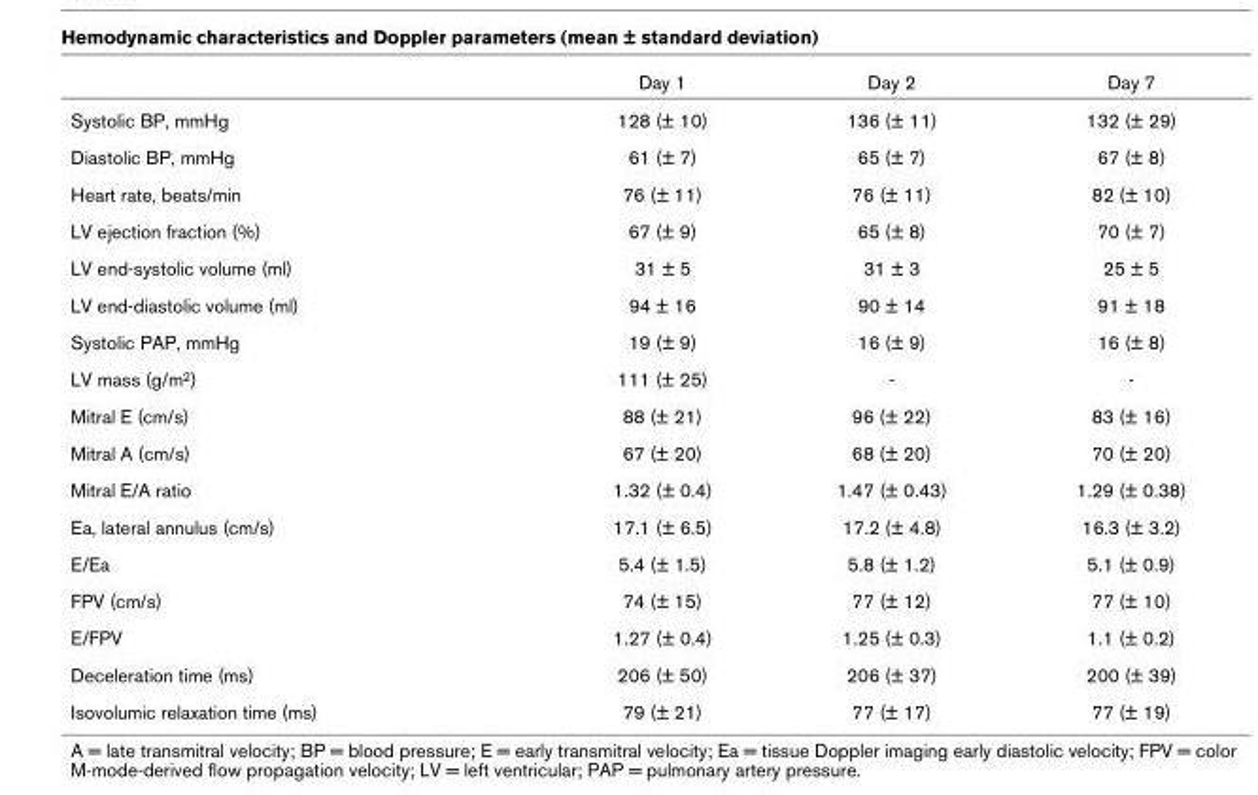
<table><thead><tr><td></td><td>Day 1</td><td>Day 2</td><td>Day 7</td></tr></thead><tbody><tr><td>Systolic BP, mmHg</td><td>128 (± 10)</td><td>136 (± 11)</td><td>132 (± 29)</td></tr><tr><td>Diastolic BP, mmHg</td><td>61 (± 7)</td><td>65 (± 7)</td><td>67 (± 8)</td></tr><tr><td>Heart rate, beats/min</td><td>76 (± 11)</td><td>76 (± 11)</td><td>82 (± 10)</td></tr><tr><td>LV ejection fraction (%)</td><td>67 (± 9)</td><td>65 (± 8)</td><td>70 (± 7)</td></tr><tr><td>LV end-systolic volume (ml)</td><td>31 ± 5</td><td>31 ± 3</td><td>25 ± 5</td></tr><tr><td>LV end-diastolic volume (ml)</td><td>94 ± 16</td><td>90 ± 14</td><td>91 ± 18</td></tr><tr><td>Systolic PAP, mmHg</td><td>19 (± 9)</td><td>16 (± 9)</td><td>16 (± 8)</td></tr><tr><td>LV mass (g/m<sup>2</sup>)</td><td>111 (± 25)</td><td>-</td><td>-</td></tr><tr><td>Mitral E (cm/s)</td><td>88 (± 21)</td><td>96 (± 22)</td><td>83 (± 16)</td></tr><tr><td>Mitral A (cm/s)</td><td>67 (± 20)</td><td>68 (± 20)</td><td>70 (± 20)</td></tr><tr><td>Mitral E/A ratio</td><td>1.32 (± 0.4)</td><td>1.47 (± 0.43)</td><td>1.29 (± 0.38)</td></tr><tr><td>Ea, lateral annulus (cm/s)</td><td>17.1 (± 6.5)</td><td>17.2 (± 4.8)</td><td>16.3 (± 3.2)</td></tr><tr><td>E/Ea</td><td>5.4 (± 1.5)</td><td>5.8 (± 1.2)</td><td>5.1 (± 0.9)</td></tr><tr><td>FPV (cm/s)</td><td>74 (± 15)</td><td>77 (± 12)</td><td>77 (± 10)</td></tr><tr><td>E/FPV</td><td>1.27 (± 0.4)</td><td>1.25 (± 0.3)</td><td>1.1 (± 0.2)</td></tr><tr><td>Deceleration time (ms)</td><td>206 (± 50)</td><td>206 (± 37)</td><td>200 (± 39)</td></tr><tr><td>Isovolumic relaxation time (ms)</td><td>79 (± 21)</td><td>77 (± 17)</td><td>77 (± 19)</td></tr></tbody></table>